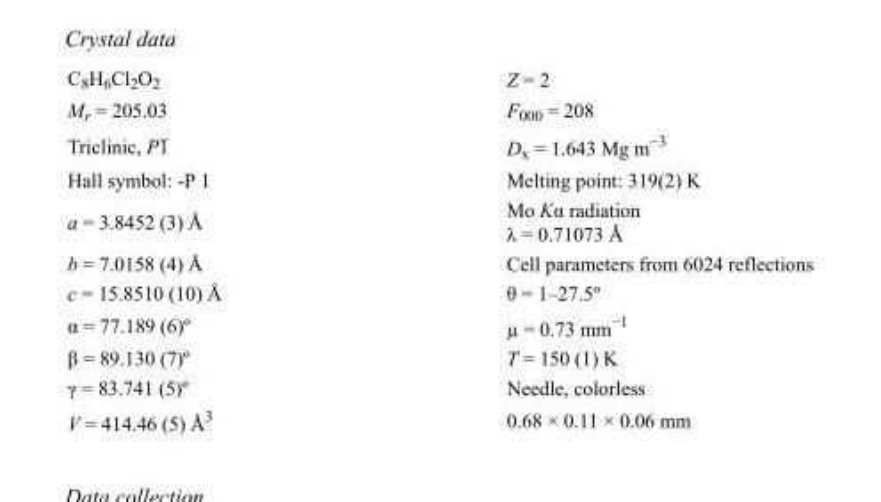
<table><tbody><tr><td>C<sub>8</sub>H<sub>6</sub>Cl<sub>2</sub>O<sub>2</sub></td><td>Z = 2</td></tr><tr><td>M<sub>r</sub> = 205.03</td><td>F000 = 208</td></tr><tr><td>Triclinic, P1</td><td>D<sub>x</sub> = 1.643 Mg m<sup>−3</sup></td></tr><tr><td>Hall symbol: -P 1</td><td>Melting point: 319(2) K</td></tr><tr><td>a = 3.8452 (3) Å</td><td>Mo Kα radiation λ = 0.71073 Å</td></tr><tr><td>b = 7.0158 (4) Å</td><td>Cell parameters from 6024 reflections</td></tr><tr><td>c = 15.8510 (10) Å</td><td>θ = 1–27.5º</td></tr><tr><td>α = 77.189 (6)º</td><td>µ = 0.73 mm<sup>−1</sup></td></tr><tr><td>β = 89.130 (7)º</td><td>T = 150 (1) K</td></tr><tr><td>γ = 83.741 (5)º</td><td>Needle, colorless</td></tr><tr><td>V = 414.46 (5) Å<sup>3</sup></td><td>0.68 × 0.11 × 0.06 mm</td></tr></tbody></table>